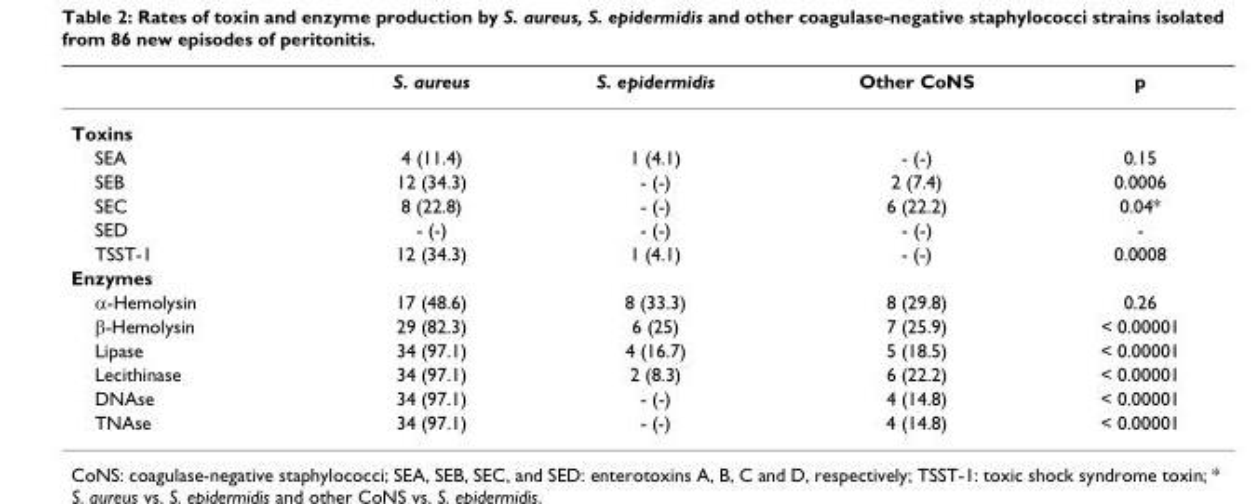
<table><thead><tr><td></td><td>S. aureus</td><td>S. epidermidis</td><td>Other CoNS</td><td>p</td></tr></thead><tbody><tr><td colspan="5">Toxins</td></tr><tr><td>SEA</td><td>4 (11.4)</td><td>1 (4.1)</td><td>- (-)</td><td>0.15</td></tr><tr><td>SEB</td><td>12 (34.3)</td><td>- (-)</td><td>2 (7.4)</td><td>0.0006</td></tr><tr><td>SEC</td><td>8 (22.8)</td><td>- (-)</td><td>6 (22.2)</td><td>0.04*</td></tr><tr><td>SED</td><td>- (-)</td><td>- (-)</td><td>- (-)</td><td>-</td></tr><tr><td>TSST-1</td><td>12 (34.3)</td><td>1 (4.1)</td><td>- (-)</td><td>0.0008</td></tr><tr><td colspan="5">Enzymes</td></tr><tr><td>α-Hemolysin</td><td>17 (48.6)</td><td>8 (33.3)</td><td>8 (29.8)</td><td>0.26</td></tr><tr><td>β-Hemolysin</td><td>29 (82.3)</td><td>6 (25)</td><td>7 (25.9)</td><td>&lt; 0.00001</td></tr><tr><td>Lipase</td><td>34 (97.1)</td><td>4 (16.7)</td><td>5 (18.5)</td><td>&lt; 0.00001</td></tr><tr><td>Lecithinase</td><td>34 (97.1)</td><td>2 (8.3)</td><td>6 (22.2)</td><td>&lt; 0.00001</td></tr><tr><td>DNAse</td><td>34 (97.1)</td><td>- (-)</td><td>4 (14.8)</td><td>&lt; 0.00001</td></tr><tr><td>TNAse</td><td>34 (97.1)</td><td>- (-)</td><td>4 (14.8)</td><td>&lt; 0.00001</td></tr></tbody></table>